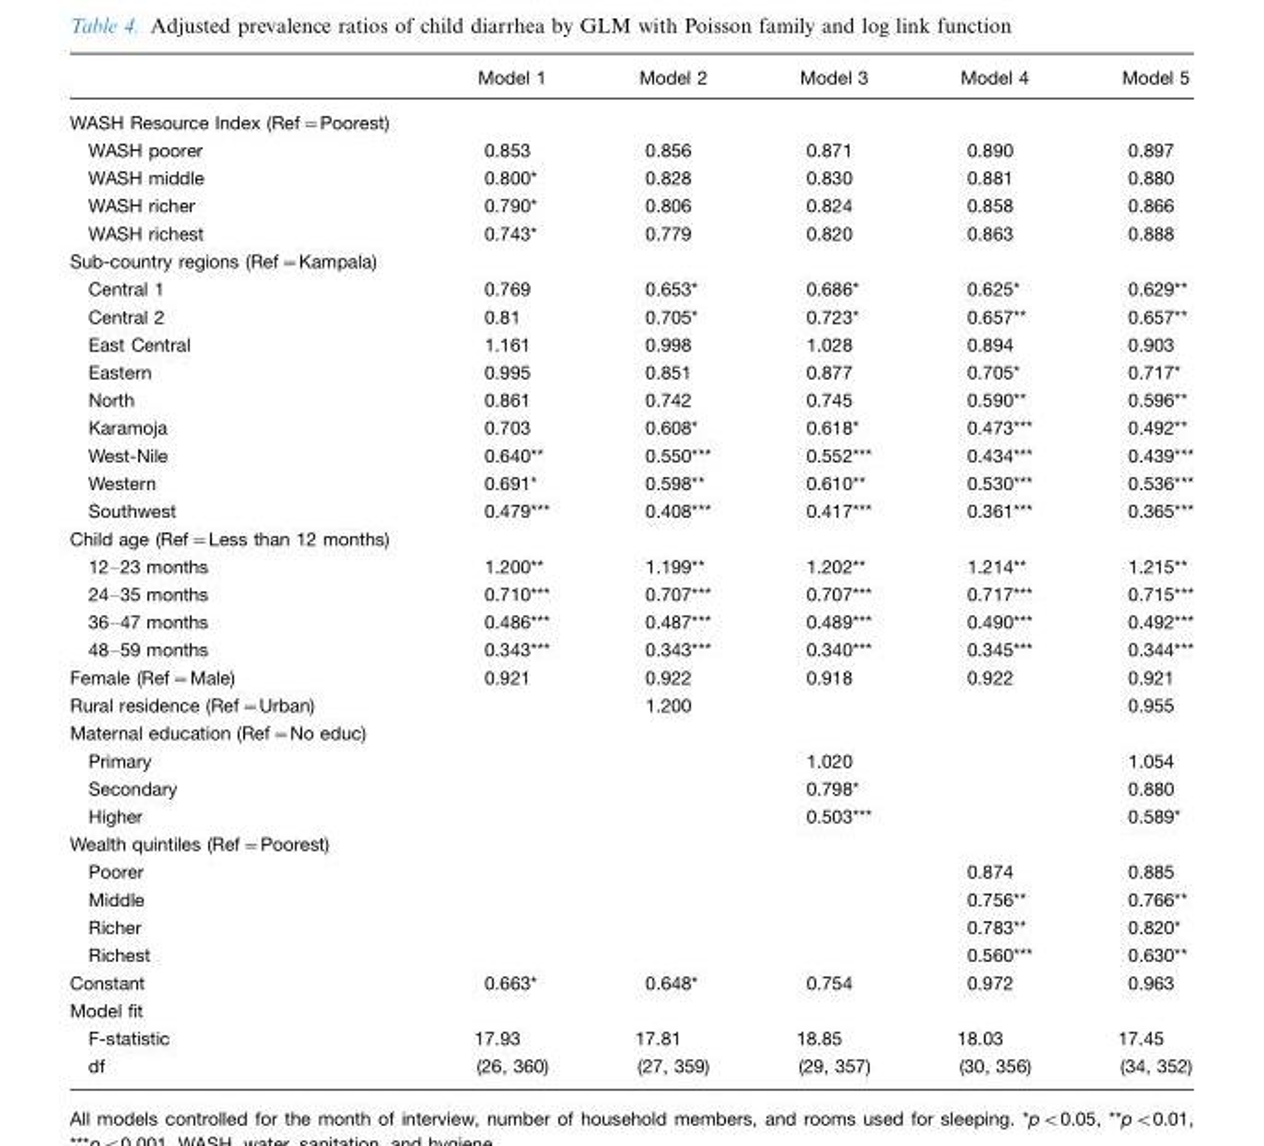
<table><thead><tr><td></td><td>Model 1</td><td>Model 2</td><td>Model 3</td><td>Model 4</td><td>Model 5</td></tr></thead><tbody><tr><td colspan="6">WASH Resource Index (Ref=Poorest)</td></tr><tr><td>WASH poorer</td><td>0.853</td><td>0.856</td><td>0.871</td><td>0.890</td><td>0.897</td></tr><tr><td>WASH middle</td><td>0.800*</td><td>0.828</td><td>0.830</td><td>0.881</td><td>0.880</td></tr><tr><td>WASH richer</td><td>0.790*</td><td>0.806</td><td>0.824</td><td>0.858</td><td>0.866</td></tr><tr><td>WASH richest</td><td>0.743*</td><td>0.779</td><td>0.820</td><td>0.863</td><td>0.888</td></tr><tr><td colspan="6">Sub-country regions (Ref=Kampala)</td></tr><tr><td>Central 1</td><td>0.769</td><td>0.653*</td><td>0.686*</td><td>0.625*</td><td>0.629**</td></tr><tr><td>Central 2</td><td>0.81</td><td>0.705*</td><td>0.723*</td><td>0.657**</td><td>0.657**</td></tr><tr><td>East Central</td><td>1.161</td><td>0.998</td><td>1.028</td><td>0.894</td><td>0.903</td></tr><tr><td>Eastern</td><td>0.995</td><td>0.851</td><td>0.877</td><td>0.705*</td><td>0.717*</td></tr><tr><td>North</td><td>0.861</td><td>0.742</td><td>0.745</td><td>0.590**</td><td>0.596**</td></tr><tr><td>Karamoja</td><td>0.703</td><td>0.608*</td><td>0.618*</td><td>0.473***</td><td>0.492**</td></tr><tr><td>West-Nile</td><td>0.640**</td><td>0.550***</td><td>0.552***</td><td>0.434***</td><td>0.439***</td></tr><tr><td>Western</td><td>0.691*</td><td>0.598**</td><td>0.610**</td><td>0.530***</td><td>0.536***</td></tr><tr><td>Southwest</td><td>0.479***</td><td>0.408***</td><td>0.417***</td><td>0.361***</td><td>0.365***</td></tr><tr><td colspan="6">Child age (Ref=Less than 12 months)</td></tr><tr><td>12–23 months</td><td>1.200**</td><td>1.199**</td><td>1.202**</td><td>1.214**</td><td>1.215**</td></tr><tr><td>24–35 months</td><td>0.710***</td><td>0.707***</td><td>0.707***</td><td>0.717***</td><td>0.715***</td></tr><tr><td>36–47 months</td><td>0.486***</td><td>0.487***</td><td>0.489***</td><td>0.490***</td><td>0.492***</td></tr><tr><td>48–59 months</td><td>0.343***</td><td>0.343***</td><td>0.340***</td><td>0.345***</td><td>0.344***</td></tr><tr><td>Female (Ref=Male)</td><td>0.921</td><td>0.922</td><td>0.918</td><td>0.922</td><td>0.921</td></tr><tr><td>Rural residence (Ref=Urban)</td><td></td><td>1.200</td><td></td><td></td><td>0.955</td></tr><tr><td colspan="6">Maternal education (Ref=No educ)</td></tr><tr><td>Primary</td><td></td><td></td><td>1.020</td><td></td><td>1.054</td></tr><tr><td>Secondary</td><td></td><td></td><td>0.798*</td><td></td><td>0.880</td></tr><tr><td>Higher</td><td></td><td></td><td>0.503***</td><td></td><td>0.589*</td></tr><tr><td colspan="6">Wealth quintiles (Ref=Poorest)</td></tr><tr><td>Poorer</td><td></td><td></td><td></td><td>0.874</td><td>0.885</td></tr><tr><td>Middle</td><td></td><td></td><td></td><td>0.756**</td><td>0.766**</td></tr><tr><td>Richer</td><td></td><td></td><td></td><td>0.783**</td><td>0.820*</td></tr><tr><td>Richest</td><td></td><td></td><td></td><td>0.560***</td><td>0.630**</td></tr><tr><td>Constant</td><td>0.663*</td><td>0.648*</td><td>0.754</td><td>0.972</td><td>0.963</td></tr><tr><td colspan="6">Model fit</td></tr><tr><td>F-statistic</td><td>17.93</td><td>17.81</td><td>18.85</td><td>18.03</td><td>17.45</td></tr><tr><td>df</td><td>(26, 360)</td><td>(27, 359)</td><td>(29, 357)</td><td>(30, 356)</td><td>(34, 352)</td></tr></tbody></table>